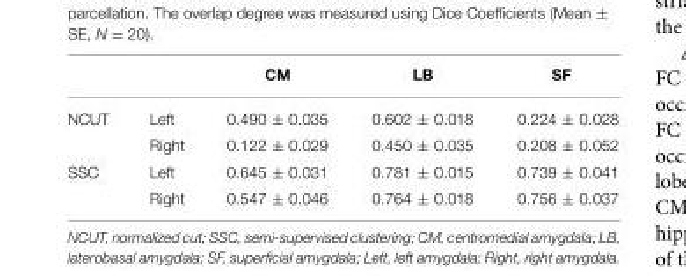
<table><thead><tr><td></td><td></td><td>CM</td><td>LB</td><td>SF</td></tr></thead><tbody><tr><td rowspan="2">NCUT</td><td>Left</td><td>0.490 ± 0.035</td><td>0.602 ± 0.018</td><td>0.224 ± 0.028</td></tr><tr><td>Right</td><td>0.122 ± 0.029</td><td>0.450 ± 0.035</td><td>0.208 ± 0.052</td></tr><tr><td rowspan="2">SSC</td><td>Left</td><td>0.645 ± 0.031</td><td>0.781 ± 0.015</td><td>0.739 ± 0.041</td></tr><tr><td>Right</td><td>0.547 ± 0.046</td><td>0.764 ± 0.018</td><td>0.756 ± 0.037</td></tr></tbody></table>